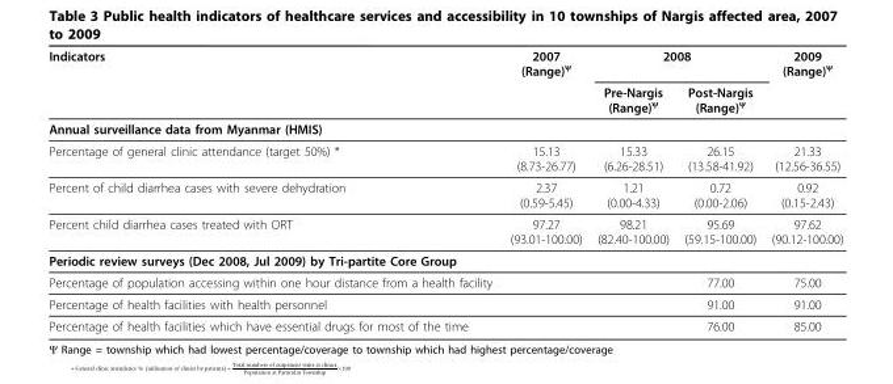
<table><thead><tr><td rowspan="2">Indicators</td><td rowspan="2">2007 (Range)<sup>ψ</sup></td><td colspan="2">2008</td><td rowspan="2">2009 (Range)<sup>ψ</sup></td></tr><tr><td>Pre-Nargis (Range)<sup>ψ</sup></td><td>Post-Nargis (Range)<sup>ψ</sup></td></tr></thead><tbody><tr><td colspan="5">Annual surveillance data from Myanmar (HMIS)</td></tr><tr><td>Percentage of general clinic attendance (target 50%) *</td><td>15.13 (8.73-26.77)</td><td>15.33 (6.26-28.51)</td><td>26.15 (13.58-41.92)</td><td>21.33 (12.56-36.55)</td></tr><tr><td>Percent of child diarrhea cases with severe dehydration</td><td>2.37 (0.59-5.45)</td><td>1.21 (0.00-4.33)</td><td>0.72 (0.00-2.06)</td><td>0.92 (0.15-2.43)</td></tr><tr><td>Percent child diarrhea cases treated with ORT</td><td>97.27 (93.01-100.00)</td><td>98.21 (82.40-100.00)</td><td>95.69 (59.15-100.00)</td><td>97.62 (90.12-100.00)</td></tr><tr><td colspan="5">Periodic review surveys (Dec 2008, Jul 2009) by Tri-partite Core Group</td></tr><tr><td>Percentage of population accessing within one hour distance from a health facility</td><td></td><td></td><td>77.00</td><td>75.00</td></tr><tr><td>Percentage of health facilities with health personnel</td><td></td><td></td><td>91.00</td><td>91.00</td></tr><tr><td>Percentage of health facilities which have essential drugs for most of the time</td><td></td><td></td><td>76.00</td><td>85.00</td></tr></tbody></table>